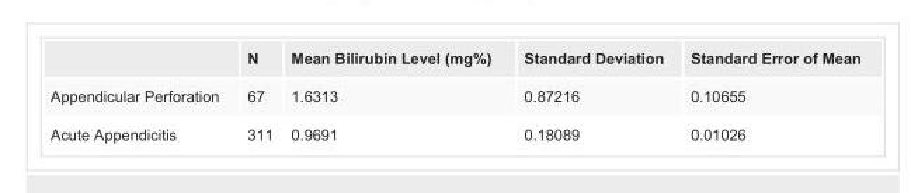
<table><thead><tr><td></td><td>N</td><td>Mean Bilirubin Level (mg%)</td><td>Standard Deviation</td><td>Standard Error of Mean</td></tr></thead><tbody><tr><td>Appendicular Perforation</td><td>67</td><td>1.6313</td><td>0.87216</td><td>0.10655</td></tr><tr><td>Acute Appendicitis</td><td>311</td><td>0.9691</td><td>0.18089</td><td>0.01026</td></tr></tbody></table>